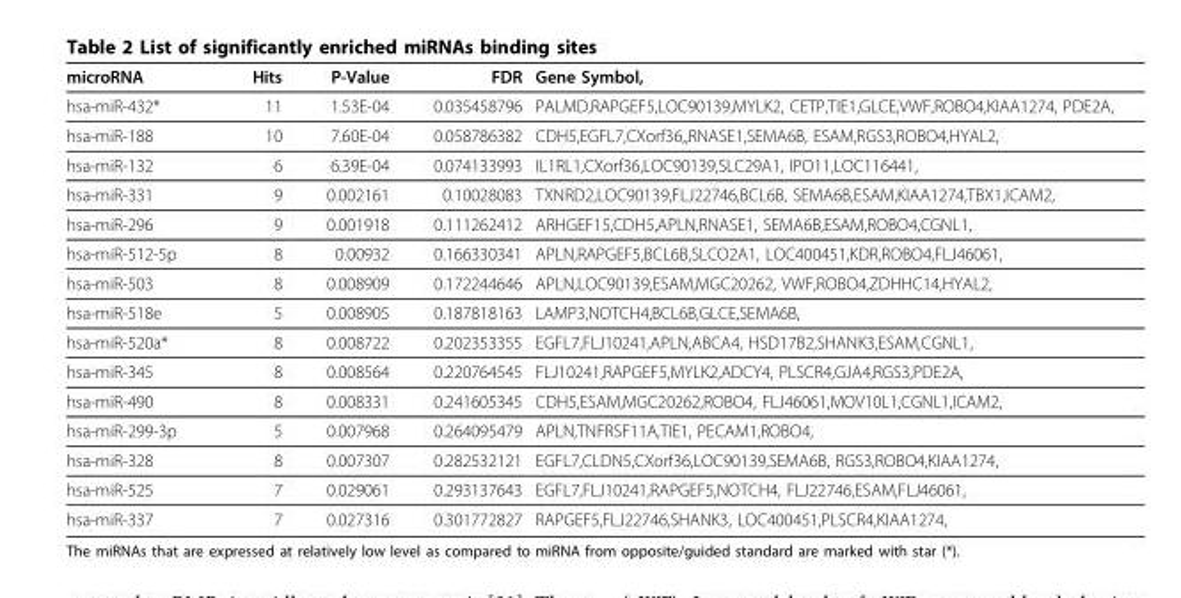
<table><thead><tr><td>microRNA</td><td>Hits</td><td>P-Value</td><td>FDR</td><td>Gene Symbol,</td></tr></thead><tbody><tr><td>hsa-miR-432*</td><td>11</td><td>1.53E-04</td><td>0.035458796</td><td>PALMD,RAPGEF5,LOC90139,MYLK2, CETP,TIE1,GLCE,VWF,ROBO4,KIAA1274, PDE2A,</td></tr><tr><td>hsa-miR-188</td><td>10</td><td>7.60E-04</td><td>0.058786382</td><td>CDH5,EGFL7,CXorf36,,RNASE1,SEMA6B, ESAM,RGS3,ROBO4,HYAL2,</td></tr><tr><td>hsa-miR-132</td><td>6</td><td>6.39E-04</td><td>0.074133993</td><td>IL1RL1,CXorf36,LOC90139,SLC29A1, IPO11,LOC116441,</td></tr><tr><td>hsa-miR-331</td><td>9</td><td>0.002161</td><td>0.10028083</td><td>TXNRD2,LOC90139,FLJ22746,BCL6B, SEMA6B,ESAM,KIAA1274,TBX1,ICAM2,</td></tr><tr><td>hsa-miR-296</td><td>9</td><td>0.001918</td><td>0.111262412</td><td>ARHGEF15,CDH5,APLN,RNASE1, SEMA6B,ESAM,ROBO4,CGNL1,</td></tr><tr><td>hsa-miR-512-5p</td><td>8</td><td>0.00932</td><td>0.166330341</td><td>APLN,RAPGEF5,BCL6B,SLCO2A1, LOC400451,KDR,ROBO4,FLJ46061,</td></tr><tr><td>hsa-miR-503</td><td>8</td><td>0.008909</td><td>0.172244646</td><td>APLN,LOC90139,ESAM,MGC20262, VWF,ROBO4,ZDHHC14,HYAL2,</td></tr><tr><td>hsa-miR-518e</td><td>5</td><td>0.008905</td><td>0.187818163</td><td>LAMP3,NOTCH4,BCL6B,GLCE,SEMA6B,</td></tr><tr><td>hsa-miR-520a*</td><td>8</td><td>0.008722</td><td>0.202353355</td><td>EGFL7,FLJ10241,APLN,ABCA4, HSD17B2,SHANK3,ESAM,CGNL1,</td></tr><tr><td>hsa-miR-345</td><td>8</td><td>0.008564</td><td>0.220764545</td><td>FLJ10241,RAPGEF5,MYLK2,ADCY4, PLSCR4,GJA4,RGS3,PDE2A,</td></tr><tr><td>hsa-miR-490</td><td>8</td><td>0.008331</td><td>0.241605345</td><td>CDH5,ESAM,MGC20262,ROBO4, FLJ46061,MOV10L1,CGNL1,ICAM2,</td></tr><tr><td>hsa-miR-299-3p</td><td>5</td><td>0.007968</td><td>0.264095479</td><td>APLN,TNFRSF11A,TIE1, PECAM1,ROBO4,</td></tr><tr><td>hsa-miR-328</td><td>8</td><td>0.007307</td><td>0.282532121</td><td>EGFL7,CLDN5,CXorf36,LOC90139,SEMA6B, RGS3,ROBO4,KIAA1274,</td></tr><tr><td>hsa-miR-525</td><td>7</td><td>0.029061</td><td>0.293137643</td><td>EGFL7,FLJ10241,RAPGEF5,NOTCH4, FLJ22746,ESAM,FLJ46061,</td></tr><tr><td>hsa-miR-337</td><td>7</td><td>0.027316</td><td>0.301772827</td><td>RAPGEF5,FLJ22746,SHANK3, LOC400451,PLSCR4,KIAA1274,</td></tr></tbody></table>